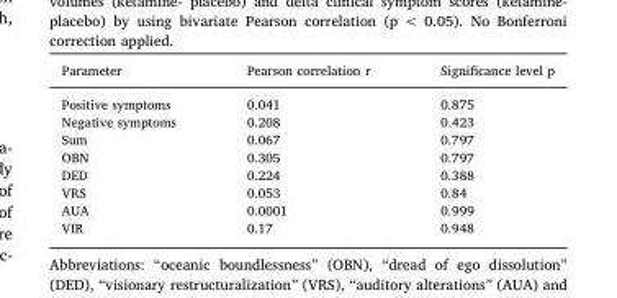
<table><thead><tr><td>Parameter</td><td>Pearson correlation r</td><td>Significance level p</td></tr></thead><tbody><tr><td>Positive symptoms</td><td>0.041</td><td>0.875</td></tr><tr><td>Negative symptoms</td><td>0.208</td><td>0.423</td></tr><tr><td>Sum</td><td>0.067</td><td>0.797</td></tr><tr><td>OBN</td><td>0.305</td><td>0.797</td></tr><tr><td>DED</td><td>0.224</td><td>0.388</td></tr><tr><td>VRS</td><td>0.053</td><td>0.84</td></tr><tr><td>AUA</td><td>0.0001</td><td>0.999</td></tr><tr><td>VIR</td><td>0.17</td><td>0.948</td></tr></tbody></table>